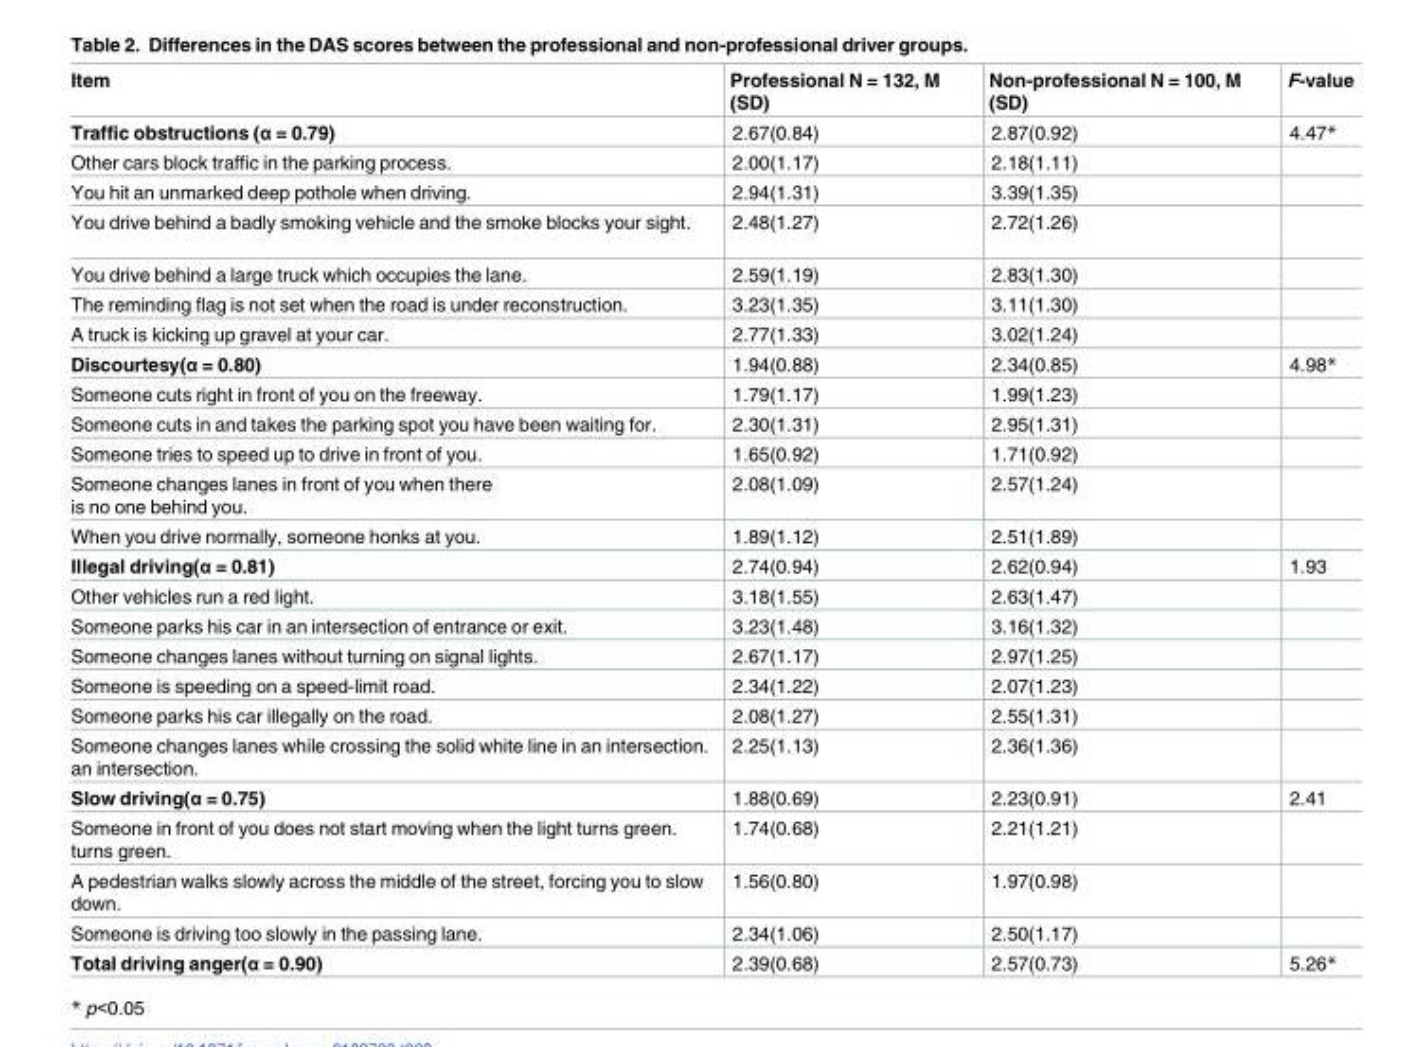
<table><thead><tr><td>Item</td><td>Professional N = 132, M (SD)</td><td>Non-professional N = 100, M (SD)</td><td>F-value</td></tr></thead><tbody><tr><td>Traffic obstructions (α = 0.79)</td><td>2.67(0.84)</td><td>2.87(0.92)</td><td>4.47*</td></tr><tr><td>Other cars block traffic in the parking process.</td><td>2.00(1.17)</td><td>2.18(1.11)</td><td></td></tr><tr><td>You hit an unmarked deep pothole when driving.</td><td>2.94(1.31)</td><td>3.39(1.35)</td><td></td></tr><tr><td>You drive behind a badly smoking vehicle and the smoke blocks your sight.</td><td>2.48(1.27)</td><td>2.72(1.26)</td><td></td></tr><tr><td>You drive behind a large truck which occupies the lane.</td><td>2.59(1.19)</td><td>2.83(1.30)</td><td></td></tr><tr><td>The reminding flag is not set when the road is under reconstruction.</td><td>3.23(1.35)</td><td>3.11(1.30)</td><td></td></tr><tr><td>A truck is kicking up gravel at your car.</td><td>2.77(1.33)</td><td>3.02(1.24)</td><td></td></tr><tr><td>Discourtesy(α = 0.80)</td><td>1.94(0.88)</td><td>2.34(0.85)</td><td>4.98*</td></tr><tr><td>Someone cuts right in front of you on the freeway.</td><td>1.79(1.17)</td><td>1.99(1.23)</td><td></td></tr><tr><td>Someone cuts in and takes the parking spot you have been waiting for.</td><td>2.30(1.31)</td><td>2.95(1.31)</td><td></td></tr><tr><td>Someone tries to speed up to drive in front of you.</td><td>1.65(0.92)</td><td>1.71(0.92)</td><td></td></tr><tr><td>Someone changes lanes in front of you when there is no one behind you.</td><td>2.08(1.09)</td><td>2.57(1.24)</td><td></td></tr><tr><td>When you drive normally, someone honks at you.</td><td>1.89(1.12)</td><td>2.51(1.89)</td><td></td></tr><tr><td>Illegal driving(α = 0.81)</td><td>2.74(0.94)</td><td>2.62(0.94)</td><td>1.93</td></tr><tr><td>Other vehicles run a red light.</td><td>3.18(1.55)</td><td>2.63(1.47)</td><td></td></tr><tr><td>Someone parks his car in an intersection of entrance or exit.</td><td>3.23(1.48)</td><td>3.16(1.32)</td><td></td></tr><tr><td>Someone changes lanes without turning on signal lights.</td><td>2.67(1.17)</td><td>2.97(1.25)</td><td></td></tr><tr><td>Someone is speeding on a speed-limit road.</td><td>2.34(1.22)</td><td>2.07(1.23)</td><td></td></tr><tr><td>Someone parks his car illegally on the road.</td><td>2.08(1.27)</td><td>2.55(1.31)</td><td></td></tr><tr><td>Someone changes lanes while crossing the solid white line in an intersection. an intersection.</td><td>2.25(1.13)</td><td>2.36(1.36)</td><td></td></tr><tr><td>Slow driving(α = 0.75)</td><td>1.88(0.69)</td><td>2.23(0.91)</td><td>2.41</td></tr><tr><td>Someone in front of you does not start moving when the light turns green. turns green.</td><td>1.74(0.68)</td><td>2.21(1.21)</td><td></td></tr><tr><td>A pedestrian walks slowly across the middle of the street, forcing you to slow down.</td><td>1.56(0.80)</td><td>1.97(0.98)</td><td></td></tr><tr><td>Someone is driving too slowly in the passing lane.</td><td>2.34(1.06)</td><td>2.50(1.17)</td><td></td></tr><tr><td>Total driving anger(α = 0.90)</td><td>2.39(0.68)</td><td>2.57(0.73)</td><td>5.26*</td></tr></tbody></table>